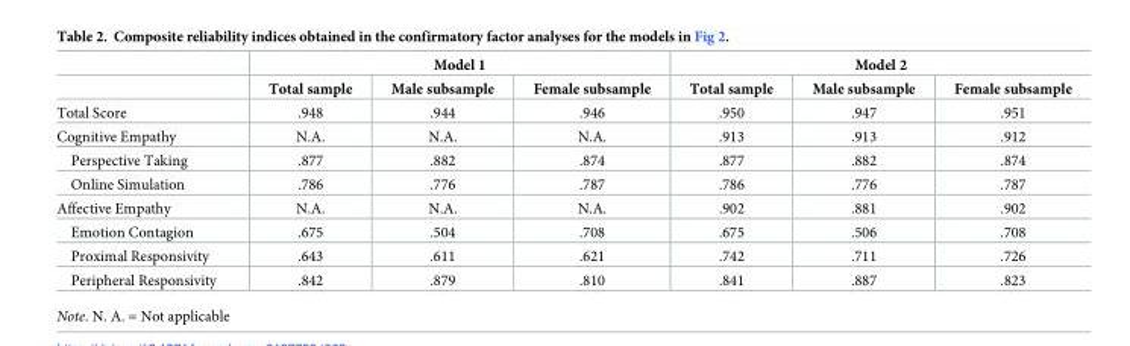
<table><thead><tr><td rowspan="2"></td><td colspan="3">Model 1</td><td colspan="3">Model 2</td></tr><tr><td>Total sample</td><td>Male subsample</td><td>Female subsample</td><td>Total sample</td><td>Male subsample</td><td>Female subsample</td></tr></thead><tbody><tr><td>Total Score</td><td>.948</td><td>.944</td><td>.946</td><td>.950</td><td>.947</td><td>.951</td></tr><tr><td>Cognitive Empathy</td><td>N.A.</td><td>N.A.</td><td>N.A.</td><td>.913</td><td>.913</td><td>.912</td></tr><tr><td>Perspective Taking</td><td>.877</td><td>.882</td><td>.874</td><td>.877</td><td>.882</td><td>.874</td></tr><tr><td>Online Simulation</td><td>.786</td><td>.776</td><td>.787</td><td>.786</td><td>.776</td><td>.787</td></tr><tr><td>Affective Empathy</td><td>N.A.</td><td>N.A.</td><td>N.A.</td><td>.902</td><td>.881</td><td>.902</td></tr><tr><td>Emotion Contagion</td><td>.675</td><td>.504</td><td>.708</td><td>.675</td><td>.506</td><td>.708</td></tr><tr><td>Proximal Responsivity</td><td>.643</td><td>.611</td><td>.621</td><td>.742</td><td>.711</td><td>.726</td></tr><tr><td>Peripheral Responsivity</td><td>.842</td><td>.879</td><td>.810</td><td>.841</td><td>.887</td><td>.823</td></tr></tbody></table>